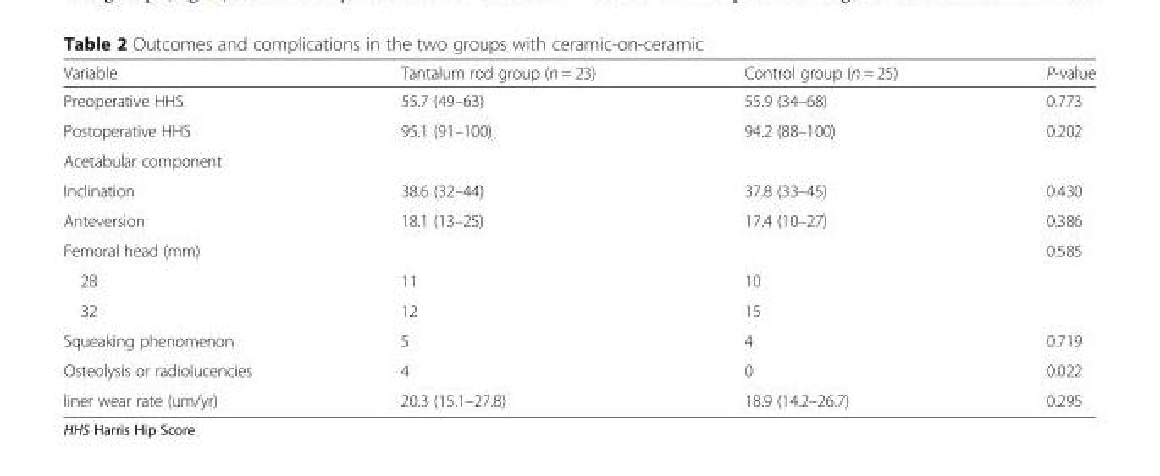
<table><thead><tr><td>Variable</td><td>Tantalum rod group (n = 23)</td><td>Control group (n = 25)</td><td>P-value</td></tr></thead><tbody><tr><td>Preoperative HHS</td><td>55.7 (49–63)</td><td>55.9 (34–68)</td><td>0.773</td></tr><tr><td>Postoperative HHS</td><td>95.1 (91–100)</td><td>94.2 (88–100)</td><td>0.202</td></tr><tr><td colspan="4">Acetabular component</td></tr><tr><td>Inclination</td><td>38.6 (32–44)</td><td>37.8 (33–45)</td><td>0.430</td></tr><tr><td>Anteversion</td><td>18.1 (13–25)</td><td>17.4 (10–27)</td><td>0.386</td></tr><tr><td>Femoral head (mm)</td><td></td><td></td><td>0.585</td></tr><tr><td>28</td><td>11</td><td>10</td><td></td></tr><tr><td>32</td><td>12</td><td>15</td><td></td></tr><tr><td>Squeaking phenomenon</td><td>5</td><td>4</td><td>0.719</td></tr><tr><td>Osteolysis or radiolucencies</td><td>4</td><td>0</td><td>0.022</td></tr><tr><td>liner wear rate (um/yr)</td><td>20.3 (15.1–27.8)</td><td>18.9 (14.2–26.7)</td><td>0.295</td></tr></tbody></table>